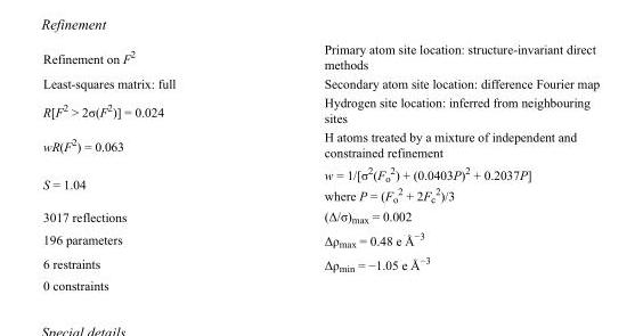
<table><tbody><tr><td>Refinement on F<sup>2</sup></td><td>Primary atom site location: structure-invariant direct methods</td></tr><tr><td>Least-squares matrix: full</td><td>Secondary atom site location: difference Fourier map</td></tr><tr><td>R[F<sup>2</sup> &gt; 2σ(F<sup>2</sup>)] = 0.024</td><td>Hydrogen site location: inferred from neighbouring sites</td></tr><tr><td>wR(F<sup>2</sup>) = 0.063</td><td>H atoms treated by a mixture of independent and constrained refinement</td></tr><tr><td>S = 1.04</td><td>w = 1/[σ<sup>2</sup>(F<sub>o</sub> <sup>2</sup>) + (0.0403P)<sup>2</sup> + 0.2037P] where P = (F<sub>o</sub> <sup>2</sup> + 2F<sub>c</sub> <sup>2</sup>)/3</td></tr><tr><td>3017 reflections</td><td>(Δ/σ)<sub>max</sub> = 0.002</td></tr><tr><td>196 parameters</td><td>Δρ<sub>max</sub> = 0.48 e Å<sup>−3</sup></td></tr><tr><td>6 restraints</td><td>Δρ<sub>min</sub> = −1.05 e Å<sup>−3</sup></td></tr><tr><td>0 constraints</td><td></td></tr></tbody></table>